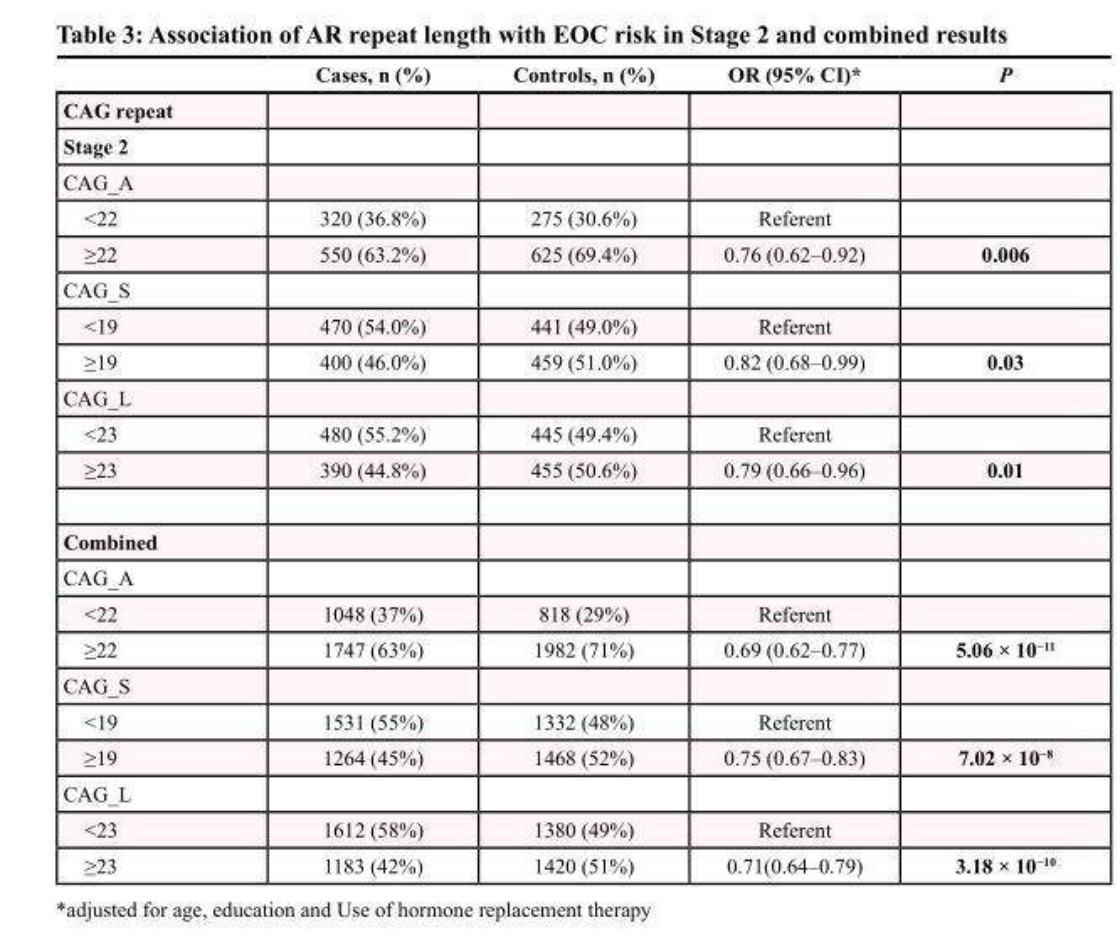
<table><thead><tr><td></td><td>Cases, n (%)</td><td>Controls, n (%)</td><td>OR (95% CI)*</td><td>P</td></tr></thead><tbody><tr><td colspan="5">CAG repeat</td></tr><tr><td colspan="5">Stage 2</td></tr><tr><td colspan="5">CAG_A</td></tr><tr><td>&lt;22</td><td>320 (36.8%)</td><td>275 (30.6%)</td><td>Referent</td><td></td></tr><tr><td>≥22</td><td>550 (63.2%)</td><td>625 (69.4%)</td><td>0.76 (0.62–0.92)</td><td>0.006</td></tr><tr><td colspan="5">CAG_S</td></tr><tr><td>&lt;19</td><td>470 (54.0%)</td><td>441 (49.0%)</td><td>Referent</td><td></td></tr><tr><td>≥19</td><td>400 (46.0%)</td><td>459 (51.0%)</td><td>0.82 (0.68–0.99)</td><td>0.03</td></tr><tr><td colspan="5">CAG_L</td></tr><tr><td>&lt;23</td><td>480 (55.2%)</td><td>445 (49.4%)</td><td>Referent</td><td></td></tr><tr><td>≥23</td><td>390 (44.8%)</td><td>455 (50.6%)</td><td>0.79 (0.66–0.96)</td><td>0.01</td></tr><tr><td colspan="5">Combined</td></tr><tr><td colspan="5">CAG_A</td></tr><tr><td>&lt;22</td><td>1048 (37%)</td><td>818 (29%)</td><td>Referent</td><td></td></tr><tr><td>≥22</td><td>1747 (63%)</td><td>1982 (71%)</td><td>0.69 (0.62–0.77)</td><td>5.06 × 10<sup>−11</sup></td></tr><tr><td colspan="5">CAG_S</td></tr><tr><td>&lt;19</td><td>1531 (55%)</td><td>1332 (48%)</td><td>Referent</td><td></td></tr><tr><td>≥19</td><td>1264 (45%)</td><td>1468 (52%)</td><td>0.75 (0.67–0.83)</td><td>7.02 × 10<sup>−8</sup></td></tr><tr><td colspan="5">CAG_L</td></tr><tr><td>&lt;23</td><td>1612 (58%)</td><td>1380 (49%)</td><td>Referent</td><td></td></tr><tr><td>≥23</td><td>1183 (42%)</td><td>1420 (51%)</td><td>0.71(0.64–0.79)</td><td>3.18 × 10<sup>−10</sup></td></tr></tbody></table>